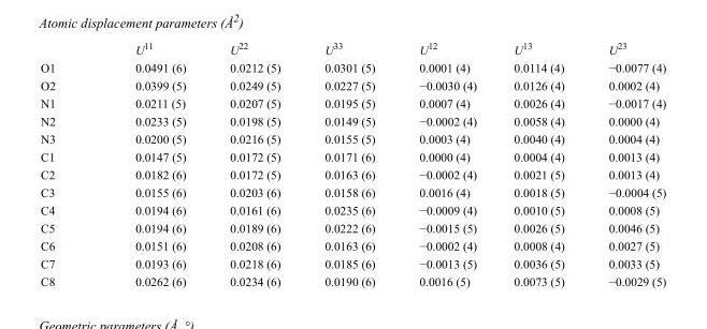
<table><thead><tr><td></td><td>U<sup>11</sup></td><td>U<sup>22</sup></td><td>U<sup>33</sup></td><td>U<sup>12</sup></td><td>U<sup>13</sup></td><td>U<sup>23</sup></td></tr></thead><tbody><tr><td>O1</td><td>0.0491 (6)</td><td>0.0212 (5)</td><td>0.0301 (5)</td><td>0.0001 (4)</td><td>0.0114 (4)</td><td>−0.0077 (4)</td></tr><tr><td>O2</td><td>0.0399 (5)</td><td>0.0249 (5)</td><td>0.0227 (5)</td><td>−0.0030 (4)</td><td>0.0126 (4)</td><td>0.0002 (4)</td></tr><tr><td>N1</td><td>0.0211 (5)</td><td>0.0207 (5)</td><td>0.0195 (5)</td><td>0.0007 (4)</td><td>0.0026 (4)</td><td>−0.0017 (4)</td></tr><tr><td>N2</td><td>0.0233 (5)</td><td>0.0198 (5)</td><td>0.0149 (5)</td><td>−0.0002 (4)</td><td>0.0058 (4)</td><td>0.0000 (4)</td></tr><tr><td>N3</td><td>0.0200 (5)</td><td>0.0216 (5)</td><td>0.0155 (5)</td><td>0.0003 (4)</td><td>0.0040 (4)</td><td>0.0004 (4)</td></tr><tr><td>C1</td><td>0.0147 (5)</td><td>0.0172 (5)</td><td>0.0171 (6)</td><td>0.0000 (4)</td><td>0.0004 (4)</td><td>0.0013 (4)</td></tr><tr><td>C2</td><td>0.0182 (6)</td><td>0.0172 (5)</td><td>0.0163 (6)</td><td>−0.0002 (4)</td><td>0.0021 (5)</td><td>0.0013 (4)</td></tr><tr><td>C3</td><td>0.0155 (6)</td><td>0.0203 (6)</td><td>0.0158 (6)</td><td>0.0016 (4)</td><td>0.0018 (5)</td><td>−0.0004 (5)</td></tr><tr><td>C4</td><td>0.0194 (6)</td><td>0.0161 (6)</td><td>0.0235 (6)</td><td>−0.0009 (4)</td><td>0.0010 (5)</td><td>0.0008 (5)</td></tr><tr><td>C5</td><td>0.0194 (6)</td><td>0.0189 (6)</td><td>0.0222 (6)</td><td>−0.0015 (5)</td><td>0.0026 (5)</td><td>0.0046 (5)</td></tr><tr><td>C6</td><td>0.0151 (6)</td><td>0.0208 (6)</td><td>0.0163 (6)</td><td>−0.0002 (4)</td><td>0.0008 (4)</td><td>0.0027 (5)</td></tr><tr><td>C7</td><td>0.0193 (6)</td><td>0.0218 (6)</td><td>0.0185 (6)</td><td>−0.0013 (5)</td><td>0.0036 (5)</td><td>0.0033 (5)</td></tr><tr><td>C8</td><td>0.0262 (6)</td><td>0.0234 (6)</td><td>0.0190 (6)</td><td>0.0016 (5)</td><td>0.0073 (5)</td><td>−0.0029 (5)</td></tr></tbody></table>